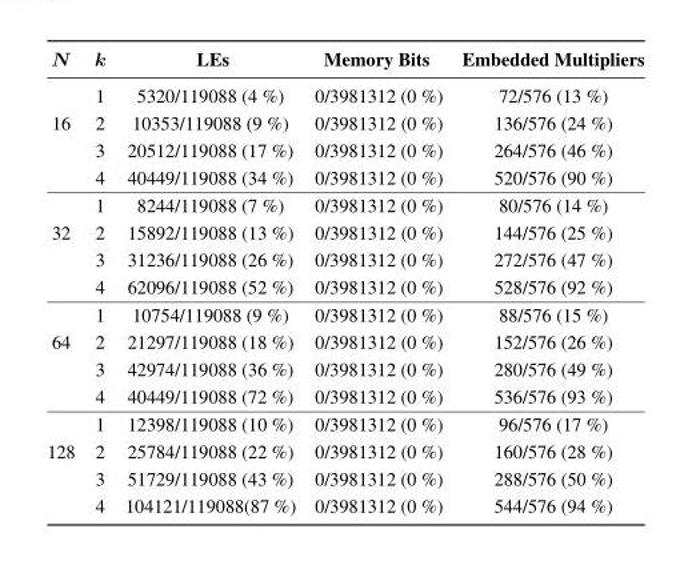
<table><thead><tr><td>N</td><td>k</td><td>LEs</td><td>Memory Bits</td><td>Embedded Multipliers</td></tr></thead><tbody><tr><td></td><td>1</td><td>5320/119088 (4 %)</td><td>0/3981312 (0 %)</td><td>72/576 (13 %)</td></tr><tr><td rowspan="4">16</td><td>2</td><td>10353/119088 (9 %)</td><td>0/3981312 (0 %)</td><td>136/576 (24 %)</td></tr><tr><td>3</td><td>20512/119088 (17 %)</td><td>0/3981312 (0 %)</td><td>264/576 (46 %)</td></tr><tr><td>4</td><td>40449/119088 (34 %)</td><td>0/3981312 (0 %)</td><td>520/576 (90 %)</td></tr><tr><td>1</td><td>8244/119088 (7 %)</td><td>0/3981312 (0 %)</td><td>80/576 (14 %)</td></tr><tr><td rowspan="4">32</td><td>2</td><td>15892/119088 (13 %)</td><td>0/3981312 (0 %)</td><td>144/576 (25 %)</td></tr><tr><td>3</td><td>31236/119088 (26 %)</td><td>0/3981312 (0 %)</td><td>272/576 (47 %)</td></tr><tr><td>4</td><td>62096/119088 (52 %)</td><td>0/3981312 (0 %)</td><td>528/576 (92 %)</td></tr><tr><td>1</td><td>10754/119088 (9 %)</td><td>0/3981312 (0 %)</td><td>88/576 (15 %)</td></tr><tr><td rowspan="4">64</td><td>2</td><td>21297/119088 (18 %)</td><td>0/3981312 (0 %)</td><td>152/576 (26 %)</td></tr><tr><td>3</td><td>42974/119088 (36 %)</td><td>0/3981312 (0 %)</td><td>280/576 (49 %)</td></tr><tr><td>4</td><td>40449/119088 (72 %)</td><td>0/3981312 (0 %)</td><td>536/576 (93 %)</td></tr><tr><td>1</td><td>12398/119088 (10 %)</td><td>0/3981312 (0 %)</td><td>96/576 (17 %)</td></tr><tr><td rowspan="3">128</td><td>2</td><td>25784/119088 (22 %)</td><td>0/3981312 (0 %)</td><td>160/576 (28 %)</td></tr><tr><td>3</td><td>51729/119088 (43 %)</td><td>0/3981312 (0 %)</td><td>288/576 (50 %)</td></tr><tr><td>4</td><td>104121/119088(87 %)</td><td>0/3981312 (0 %)</td><td>544/576 (94 %)</td></tr></tbody></table>